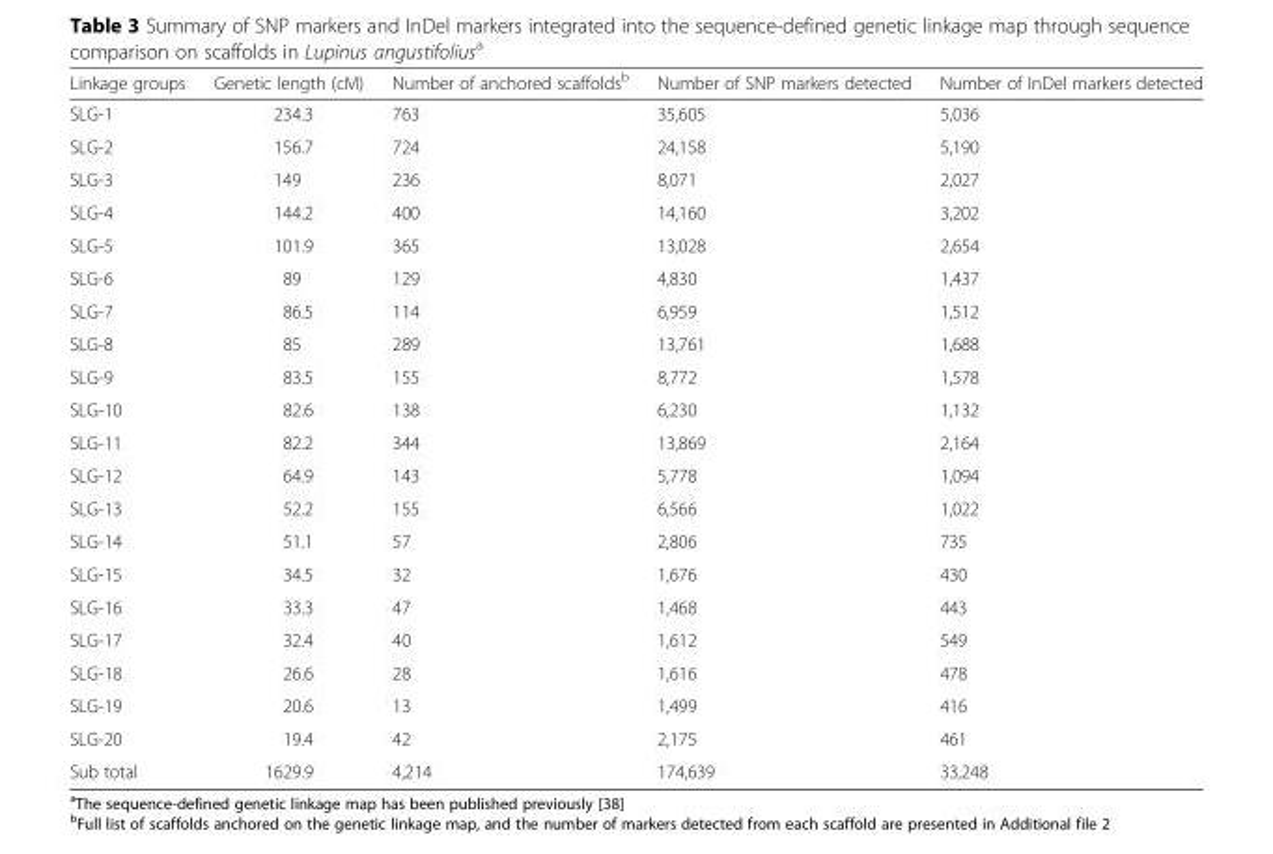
<table><thead><tr><td>Linkage groups</td><td>Genetic length (cM)</td><td>Number of anchored scaffolds<sup>b</sup></td><td>Number of SNP markers detected</td><td>Number of InDel markers detected</td></tr></thead><tbody><tr><td>SLG-1</td><td>234.3</td><td>763</td><td>35,605</td><td>5,036</td></tr><tr><td>SLG-2</td><td>156.7</td><td>724</td><td>24,158</td><td>5,190</td></tr><tr><td>SLG-3</td><td>149</td><td>236</td><td>8,071</td><td>2,027</td></tr><tr><td>SLG-4</td><td>144.2</td><td>400</td><td>14,160</td><td>3,202</td></tr><tr><td>SLG-5</td><td>101.9</td><td>365</td><td>13,028</td><td>2,654</td></tr><tr><td>SLG-6</td><td>89</td><td>129</td><td>4,830</td><td>1,437</td></tr><tr><td>SLG-7</td><td>86.5</td><td>114</td><td>6,959</td><td>1,512</td></tr><tr><td>SLG-8</td><td>85</td><td>289</td><td>13,761</td><td>1,688</td></tr><tr><td>SLG-9</td><td>83.5</td><td>155</td><td>8,772</td><td>1,578</td></tr><tr><td>SLG-10</td><td>82.6</td><td>138</td><td>6,230</td><td>1,132</td></tr><tr><td>SLG-11</td><td>82.2</td><td>344</td><td>13,869</td><td>2,164</td></tr><tr><td>SLG-12</td><td>64.9</td><td>143</td><td>5,778</td><td>1,094</td></tr><tr><td>SLG-13</td><td>52.2</td><td>155</td><td>6,566</td><td>1,022</td></tr><tr><td>SLG-14</td><td>51.1</td><td>57</td><td>2,806</td><td>735</td></tr><tr><td>SLG-15</td><td>34.5</td><td>32</td><td>1,676</td><td>430</td></tr><tr><td>SLG-16</td><td>33.3</td><td>47</td><td>1,468</td><td>443</td></tr><tr><td>SLG-17</td><td>32.4</td><td>40</td><td>1,612</td><td>549</td></tr><tr><td>SLG-18</td><td>26.6</td><td>28</td><td>1,616</td><td>478</td></tr><tr><td>SLG-19</td><td>20.6</td><td>13</td><td>1,499</td><td>416</td></tr><tr><td>SLG-20</td><td>19.4</td><td>42</td><td>2,175</td><td>461</td></tr><tr><td>Sub total</td><td>1629.9</td><td>4,214</td><td>174,639</td><td>33,248</td></tr></tbody></table>